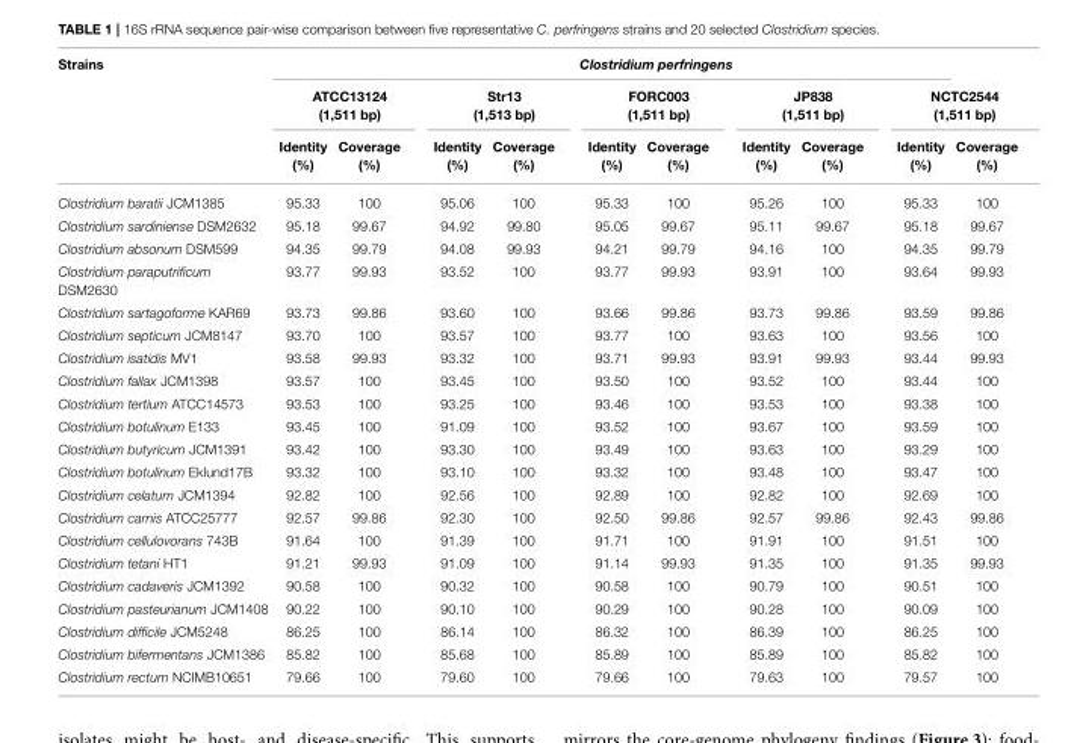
<table><thead><tr><td rowspan="3">Strains</td><td colspan="10">Clostridium perfringens</td></tr><tr><td colspan="2">ATCC13124 (1,511 bp)</td><td colspan="2">Str13 (1,513 bp)</td><td colspan="2">FORC003 (1,511 bp)</td><td colspan="2">JP838 (1,511 bp)</td><td colspan="2">NCTC2544 (1,511 bp)</td></tr><tr><td>Identity (%)</td><td>Coverage (%)</td><td>Identity (%)</td><td>Coverage (%)</td><td>Identity (%)</td><td>Coverage (%)</td><td>Identity (%)</td><td>Coverage (%)</td><td>Identity (%)</td><td>Coverage (%)</td></tr></thead><tbody><tr><td>Clostridium baratii JCM1385</td><td>95.33</td><td>100</td><td>95.06</td><td>100</td><td>95.33</td><td>100</td><td>95.26</td><td>100</td><td>95.33</td><td>100</td></tr><tr><td>Clostridium sardiniense DSM2632</td><td>95.18</td><td>99.67</td><td>94.92</td><td>99.80</td><td>95.05</td><td>99.67</td><td>95.11</td><td>99.67</td><td>95.18</td><td>99.67</td></tr><tr><td>Clostridium absonum DSM599</td><td>94.35</td><td>99.79</td><td>94.08</td><td>99.93</td><td>94.21</td><td>99.79</td><td>94.16</td><td>100</td><td>94.35</td><td>99.79</td></tr><tr><td>Clostridium paraputrificum DSM2630</td><td>93.77</td><td>99.93</td><td>93.52</td><td>100</td><td>93.77</td><td>99.93</td><td>93.91</td><td>100</td><td>93.64</td><td>99.93</td></tr><tr><td>Clostridium sartagoforme KAR69</td><td>93.73</td><td>99.86</td><td>93.60</td><td>100</td><td>93.66</td><td>99.86</td><td>93.73</td><td>99.86</td><td>93.59</td><td>99.86</td></tr><tr><td>Clostridium septicum JCM8147</td><td>93.70</td><td>100</td><td>93.57</td><td>100</td><td>93.77</td><td>100</td><td>93.63</td><td>100</td><td>93.56</td><td>100</td></tr><tr><td>Clostridium isatidis MV1</td><td>93.58</td><td>99.93</td><td>93.32</td><td>100</td><td>93.71</td><td>99.93</td><td>93.91</td><td>99.93</td><td>93.44</td><td>99.93</td></tr><tr><td>Clostridium fallax JCM1398</td><td>93.57</td><td>100</td><td>93.45</td><td>100</td><td>93.50</td><td>100</td><td>93.52</td><td>100</td><td>93.44</td><td>100</td></tr><tr><td>Clostridium tertium ATCC14573</td><td>93.53</td><td>100</td><td>93.25</td><td>100</td><td>93.46</td><td>100</td><td>93.53</td><td>100</td><td>93.38</td><td>100</td></tr><tr><td>Clostridium botulinum E133</td><td>93.45</td><td>100</td><td>91.09</td><td>100</td><td>93.52</td><td>100</td><td>93.67</td><td>100</td><td>93.59</td><td>100</td></tr><tr><td>Clostridium butyricum JCM1391</td><td>93.42</td><td>100</td><td>93.30</td><td>100</td><td>93.49</td><td>100</td><td>93.63</td><td>100</td><td>93.29</td><td>100</td></tr><tr><td>Clostridium botulinum Eklund17B</td><td>93.32</td><td>100</td><td>93.10</td><td>100</td><td>93.32</td><td>100</td><td>93.48</td><td>100</td><td>93.47</td><td>100</td></tr><tr><td>Clostridium celatum JCM1394</td><td>92.82</td><td>100</td><td>92.56</td><td>100</td><td>92.89</td><td>100</td><td>92.82</td><td>100</td><td>92.69</td><td>100</td></tr><tr><td>Clostridium carnis ATCC25777</td><td>92.57</td><td>99.86</td><td>92.30</td><td>100</td><td>92.50</td><td>99.86</td><td>92.57</td><td>99.86</td><td>92.43</td><td>99.86</td></tr><tr><td>Clostridium cellulovorans 743B</td><td>91.64</td><td>100</td><td>91.39</td><td>100</td><td>91.71</td><td>100</td><td>91.91</td><td>100</td><td>91.51</td><td>100</td></tr><tr><td>Clostridium tetani HT1</td><td>91.21</td><td>99.93</td><td>91.09</td><td>100</td><td>91.14</td><td>99.93</td><td>91.35</td><td>100</td><td>91.35</td><td>99.93</td></tr><tr><td>Clostridium cadaveris JCM1392</td><td>90.58</td><td>100</td><td>90.32</td><td>100</td><td>90.58</td><td>100</td><td>90.79</td><td>100</td><td>90.51</td><td>100</td></tr><tr><td>Clostridium pasteurianum JCM1408</td><td>90.22</td><td>100</td><td>90.10</td><td>100</td><td>90.29</td><td>100</td><td>90.28</td><td>100</td><td>90.09</td><td>100</td></tr><tr><td>Clostridium difficile JCM5248</td><td>86.25</td><td>100</td><td>86.14</td><td>100</td><td>86.32</td><td>100</td><td>86.39</td><td>100</td><td>86.25</td><td>100</td></tr><tr><td>Clostridium bifermentans JCM1386</td><td>85.82</td><td>100</td><td>85.68</td><td>100</td><td>85.89</td><td>100</td><td>85.89</td><td>100</td><td>85.82</td><td>100</td></tr><tr><td>Clostridium rectum NCIMB10651</td><td>79.66</td><td>100</td><td>79.60</td><td>100</td><td>79.66</td><td>100</td><td>79.63</td><td>100</td><td>79.57</td><td>100</td></tr></tbody></table>